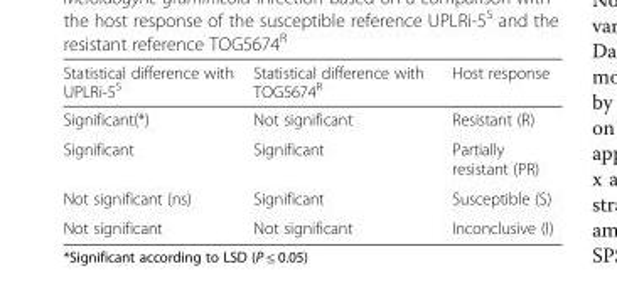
<table><thead><tr><td>Statistical difference with UPLRi-5<sup>S</sup></td><td>Statistical difference with TOG5674<sup>R</sup></td><td>Host response</td></tr></thead><tbody><tr><td>Significant(*)</td><td>Not significant</td><td>Resistant (R)</td></tr><tr><td>Significant</td><td>Significant</td><td>Partially resistant (PR)</td></tr><tr><td>Not significant (ns)</td><td>Significant</td><td>Susceptible (S)</td></tr><tr><td>Not significant</td><td>Not significant</td><td>Inconclusive (I)</td></tr></tbody></table>